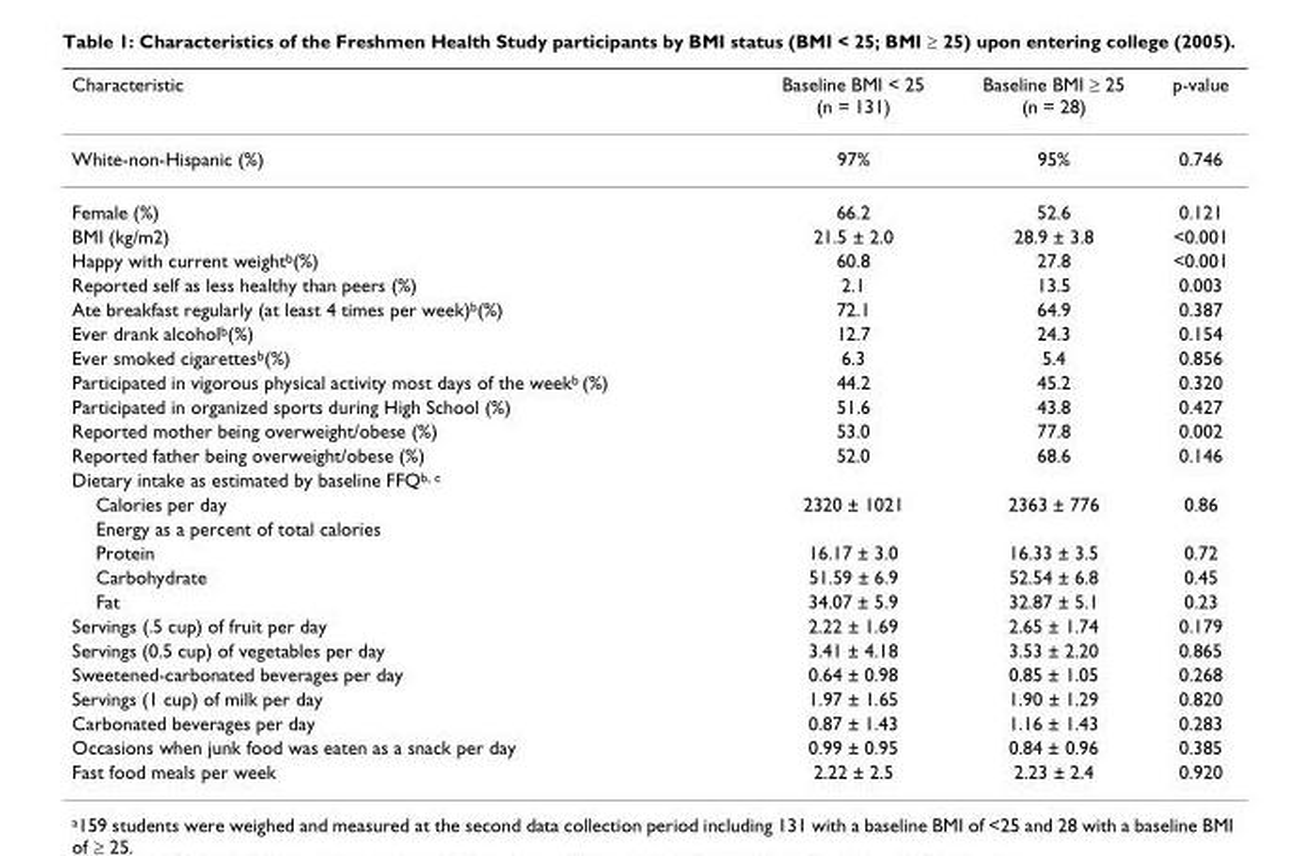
<table><thead><tr><td>Characteristic</td><td>Baseline BMI &lt; 25 (n = 131)</td><td>Baseline BMI ≥ 25 (n = 28)</td><td>p-value</td></tr></thead><tbody><tr><td>White-non-Hispanic (%)</td><td>97%</td><td>95%</td><td>0.746</td></tr><tr><td>Female (%)</td><td>66.2</td><td>52.6</td><td>0.121</td></tr><tr><td>BMI (kg/m2)</td><td>21.5 ± 2.0</td><td>28.9 ± 3.8</td><td>&lt;0.001</td></tr><tr><td>Happy with current weight<sup>b</sup>(%)</td><td>60.8</td><td>27.8</td><td>&lt;0.001</td></tr><tr><td>Reported self as less healthy than peers (%)</td><td>2.1</td><td>13.5</td><td>0.003</td></tr><tr><td>Ate breakfast regularly (at least 4 times per week)<sup>b</sup>(%)</td><td>72.1</td><td>64.9</td><td>0.387</td></tr><tr><td>Ever drank alcohol<sup>b</sup>(%)</td><td>12.7</td><td>24.3</td><td>0.154</td></tr><tr><td>Ever smoked cigarettes<sup>b</sup>(%)</td><td>6.3</td><td>5.4</td><td>0.856</td></tr><tr><td>Participated in vigorous physical activity most days of the week<sup>b</sup> (%)</td><td>44.2</td><td>45.2</td><td>0.320</td></tr><tr><td>Participated in organized sports during High School (%)</td><td>51.6</td><td>43.8</td><td>0.427</td></tr><tr><td>Reported mother being overweight/obese (%)</td><td>53.0</td><td>77.8</td><td>0.002</td></tr><tr><td>Reported father being overweight/obese (%)</td><td>52.0</td><td>68.6</td><td>0.146</td></tr><tr><td colspan="4">Dietary intake as estimated by baseline FFQ<sup>b, c</sup></td></tr><tr><td>Calories per day</td><td>2320 ± 1021</td><td>2363 ± 776</td><td>0.86</td></tr><tr><td colspan="4">Energy as a percent of total calories</td></tr><tr><td>Protein</td><td>16.17 ± 3.0</td><td>16.33 ± 3.5</td><td>0.72</td></tr><tr><td>Carbohydrate</td><td>51.59 ± 6.9</td><td>52.54 ± 6.8</td><td>0.45</td></tr><tr><td>Fat</td><td>34.07 ± 5.9</td><td>32.87 ± 5.1</td><td>0.23</td></tr><tr><td>Servings (.5 cup) of fruit per day</td><td>2.22 ± 1.69</td><td>2.65 ± 1.74</td><td>0.179</td></tr><tr><td>Servings (0.5 cup) of vegetables per day</td><td>3.41 ± 4.18</td><td>3.53 ± 2.20</td><td>0.865</td></tr><tr><td>Sweetened-carbonated beverages per day</td><td>0.64 ± 0.98</td><td>0.85 ± 1.05</td><td>0.268</td></tr><tr><td>Servings (1 cup) of milk per day</td><td>1.97 ± 1.65</td><td>1.90 ± 1.29</td><td>0.820</td></tr><tr><td>Carbonated beverages per day</td><td>0.87 ± 1.43</td><td>1.16 ± 1.43</td><td>0.283</td></tr><tr><td>Occasions when junk food was eaten as a snack per day</td><td>0.99 ± 0.95</td><td>0.84 ± 0.96</td><td>0.385</td></tr><tr><td>Fast food meals per week</td><td>2.22 ± 2.5</td><td>2.23 ± 2.4</td><td>0.920</td></tr></tbody></table>